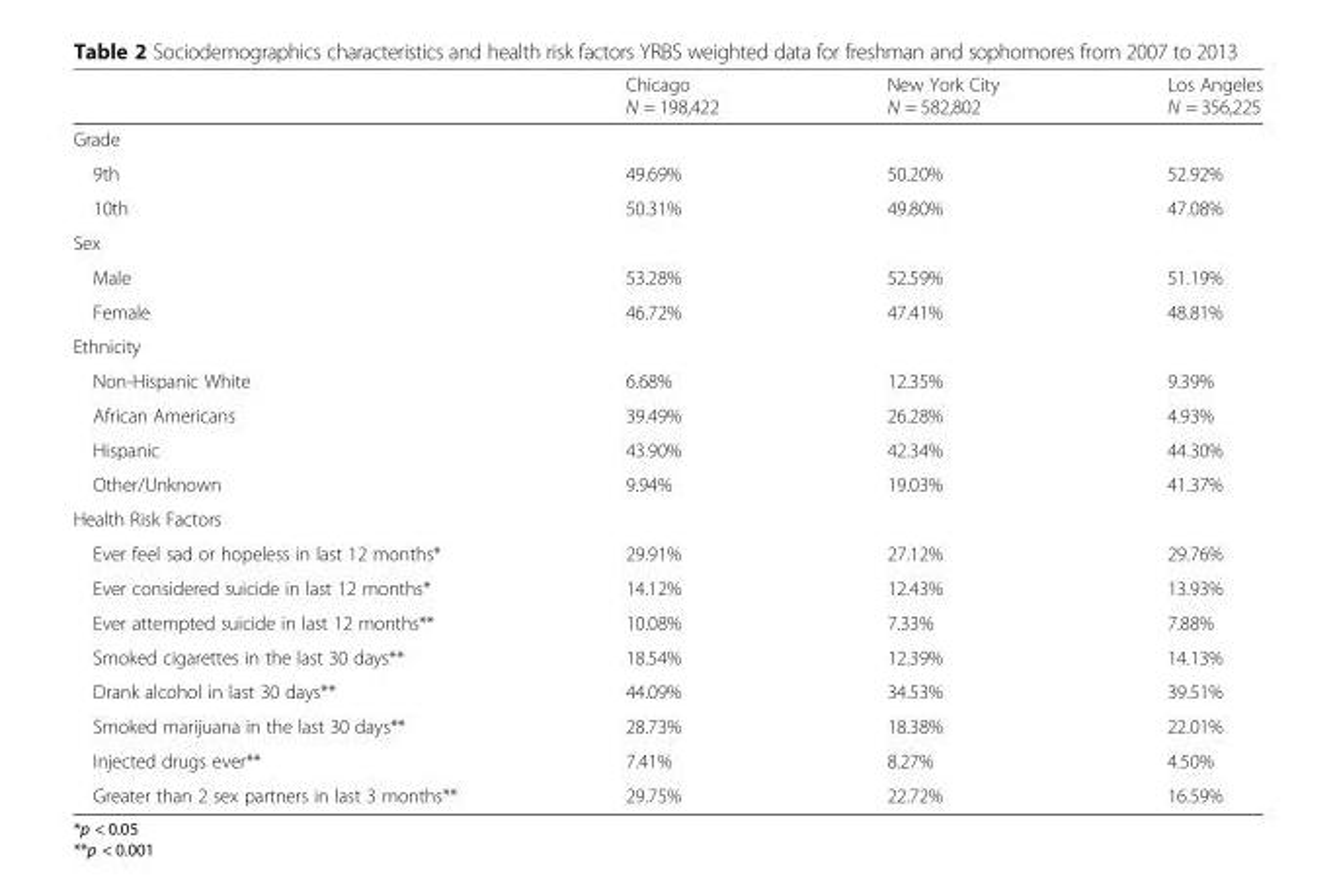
<table><thead><tr><td></td><td>Chicago N = 198,422</td><td>New York City N = 582,802</td><td>Los Angeles N = 356,225</td></tr></thead><tbody><tr><td colspan="4">Grade</td></tr><tr><td>9th</td><td>49.69%</td><td>50.20%</td><td>52.92%</td></tr><tr><td>10th</td><td>50.31%</td><td>49.80%</td><td>47.08%</td></tr><tr><td colspan="4">Sex</td></tr><tr><td>Male</td><td>53.28%</td><td>52.59%</td><td>51.19%</td></tr><tr><td>Female</td><td>46.72%</td><td>47.41%</td><td>48.81%</td></tr><tr><td colspan="4">Ethnicity</td></tr><tr><td>Non-Hispanic White</td><td>6.68%</td><td>12.35%</td><td>9.39%</td></tr><tr><td>African Americans</td><td>39.49%</td><td>26.28%</td><td>4.93%</td></tr><tr><td>Hispanic</td><td>43.90%</td><td>42.34%</td><td>44.30%</td></tr><tr><td>Other/Unknown</td><td>9.94%</td><td>19.03%</td><td>41.37%</td></tr><tr><td colspan="4">Health Risk Factors</td></tr><tr><td>Ever feel sad or hopeless in last 12 months*</td><td>29.91%</td><td>27.12%</td><td>29.76%</td></tr><tr><td>Ever considered suicide in last 12 months*</td><td>14.12%</td><td>12.43%</td><td>13.93%</td></tr><tr><td>Ever attempted suicide in last 12 months**</td><td>10.08%</td><td>7.33%</td><td>7.88%</td></tr><tr><td>Smoked cigarettes in the last 30 days**</td><td>18.54%</td><td>12.39%</td><td>14.13%</td></tr><tr><td>Drank alcohol in last 30 days**</td><td>44.09%</td><td>34.53%</td><td>39.51%</td></tr><tr><td>Smoked marijuana in the last 30 days**</td><td>28.73%</td><td>18.38%</td><td>22.01%</td></tr><tr><td>Injected drugs ever**</td><td>7.41%</td><td>8.27%</td><td>4.50%</td></tr><tr><td>Greater than 2 sex partners in last 3 months**</td><td>29.75%</td><td>22.72%</td><td>16.59%</td></tr></tbody></table>